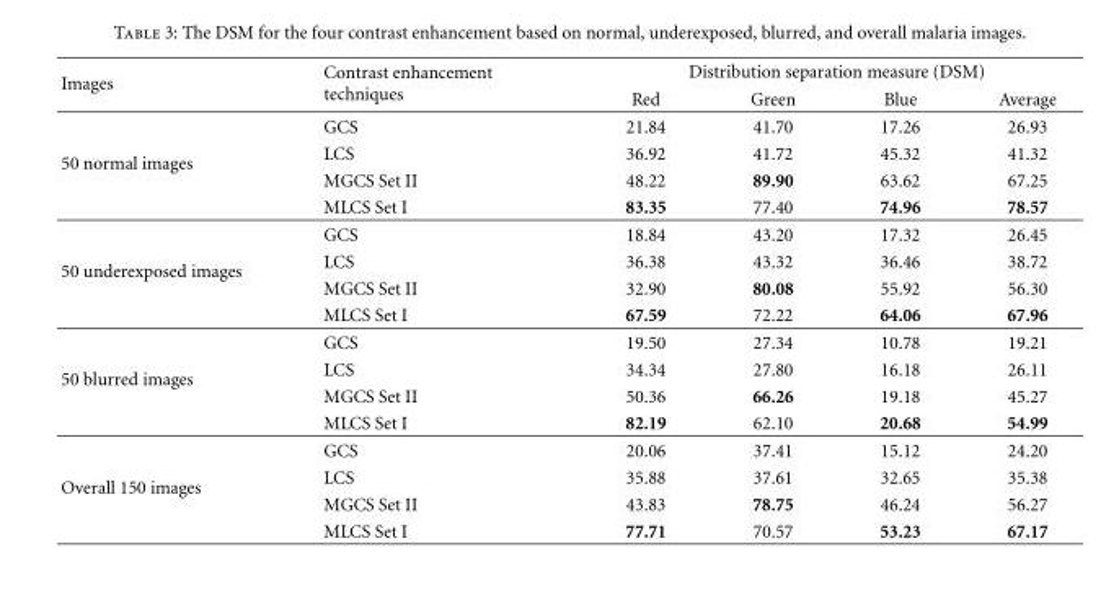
<table><thead><tr><td rowspan="2">Images</td><td rowspan="2">Contrast enhancement techniques</td><td colspan="4">Distribution separation measure (DSM)</td></tr><tr><td>Red</td><td>Green</td><td>Blue</td><td>Average</td></tr></thead><tbody><tr><td rowspan="4">50 normal images</td><td>GCS</td><td>21.84</td><td>41.70</td><td>17.26</td><td>26.93</td></tr><tr><td>LCS</td><td>36.92</td><td>41.72</td><td>45.32</td><td>41.32</td></tr><tr><td>MGCS Set II</td><td>48.22</td><td>89.90</td><td>63.62</td><td>67.25</td></tr><tr><td>MLCS Set I</td><td>83.35</td><td>77.40</td><td>74.96</td><td>78.57</td></tr><tr><td rowspan="4">50 underexposed images</td><td>GCS</td><td>18.84</td><td>43.20</td><td>17.32</td><td>26.45</td></tr><tr><td>LCS</td><td>36.38</td><td>43.32</td><td>36.46</td><td>38.72</td></tr><tr><td>MGCS Set II</td><td>32.90</td><td>80.08</td><td>55.92</td><td>56.30</td></tr><tr><td>MLCS Set I</td><td>67.59</td><td>72.22</td><td>64.06</td><td>67.96</td></tr><tr><td rowspan="4">50 blurred images</td><td>GCS</td><td>19.50</td><td>27.34</td><td>10.78</td><td>19.21</td></tr><tr><td>LCS</td><td>34.34</td><td>27.80</td><td>16.18</td><td>26.11</td></tr><tr><td>MGCS Set II</td><td>50.36</td><td>66.26</td><td>19.18</td><td>45.27</td></tr><tr><td>MLCS Set I</td><td>82.19</td><td>62.10</td><td>20.68</td><td>54.99</td></tr><tr><td rowspan="4">Overall 150 images</td><td>GCS</td><td>20.06</td><td>37.41</td><td>15.12</td><td>24.20</td></tr><tr><td>LCS</td><td>35.88</td><td>37.61</td><td>32.65</td><td>35.38</td></tr><tr><td>MGCS Set II</td><td>43.83</td><td>78.75</td><td>46.24</td><td>56.27</td></tr><tr><td>MLCS Set I</td><td>77.71</td><td>70.57</td><td>53.23</td><td>67.17</td></tr></tbody></table>